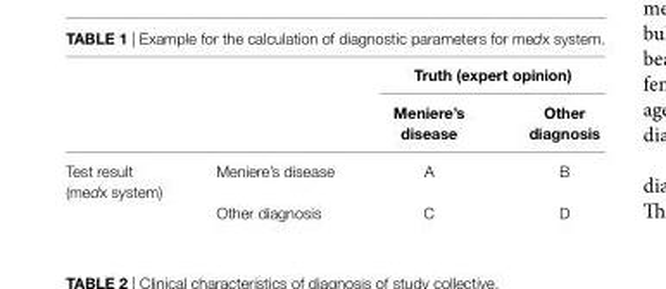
<table><thead><tr><td rowspan="2"></td><td rowspan="2"></td><td colspan="2">Truth (expert opinion)</td></tr><tr><td>Meniere’s disease</td><td>Other diagnosis</td></tr></thead><tbody><tr><td rowspan="2">Test result (medx system)</td><td>Meniere’s disease</td><td>A</td><td>B</td></tr><tr><td>Other diagnosis</td><td>C</td><td>D</td></tr></tbody></table>